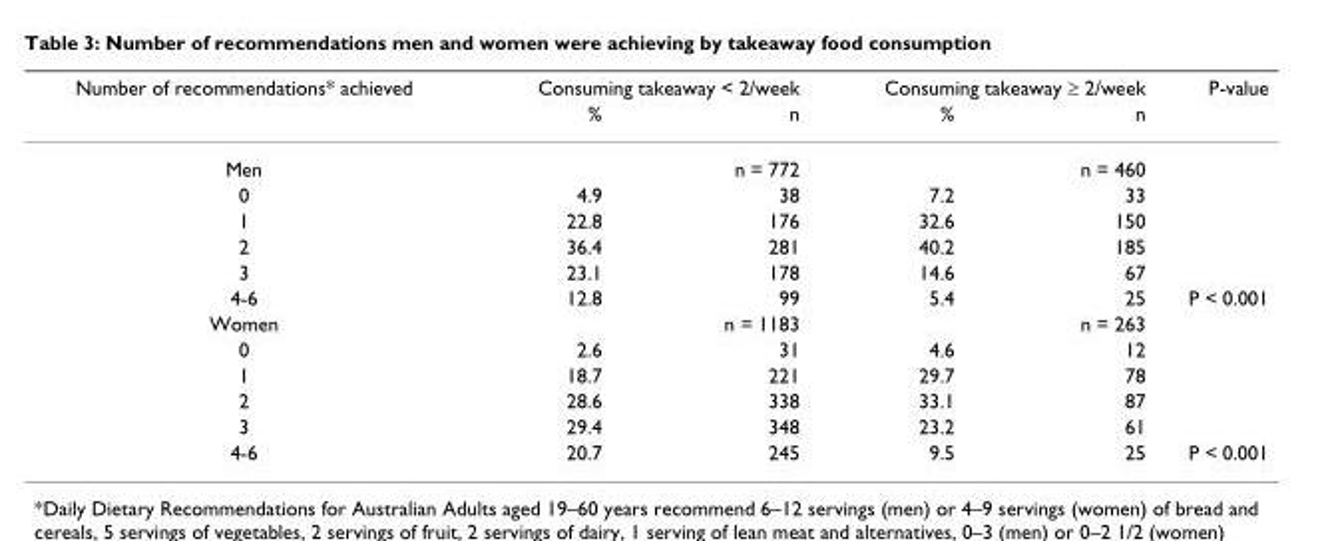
<table><thead><tr><td rowspan="2">Number of recommendations* achieved</td><td colspan="2">Consuming takeaway &lt; 2/week</td><td colspan="2">Consuming takeaway ≥ 2/week</td><td rowspan="2">P-value</td></tr><tr><td>%</td><td>n</td><td>%</td><td>n</td></tr></thead><tbody><tr><td>Men</td><td></td><td>n = 772</td><td></td><td>n = 460</td><td></td></tr><tr><td>0</td><td>4.9</td><td>38</td><td>7.2</td><td>33</td><td></td></tr><tr><td>1</td><td>22.8</td><td>176</td><td>32.6</td><td>150</td><td></td></tr><tr><td>2</td><td>36.4</td><td>281</td><td>40.2</td><td>185</td><td></td></tr><tr><td>3</td><td>23.1</td><td>178</td><td>14.6</td><td>67</td><td></td></tr><tr><td>4-6</td><td>12.8</td><td>99</td><td>5.4</td><td>25</td><td>P &lt; 0.001</td></tr><tr><td>Women</td><td></td><td>n = 1183</td><td></td><td>n = 263</td><td></td></tr><tr><td>0</td><td>2.6</td><td>31</td><td>4.6</td><td>12</td><td></td></tr><tr><td>1</td><td>18.7</td><td>221</td><td>29.7</td><td>78</td><td></td></tr><tr><td>2</td><td>28.6</td><td>338</td><td>33.1</td><td>87</td><td></td></tr><tr><td>3</td><td>29.4</td><td>348</td><td>23.2</td><td>61</td><td></td></tr><tr><td>4-6</td><td>20.7</td><td>245</td><td>9.5</td><td>25</td><td>P &lt; 0.001</td></tr></tbody></table>